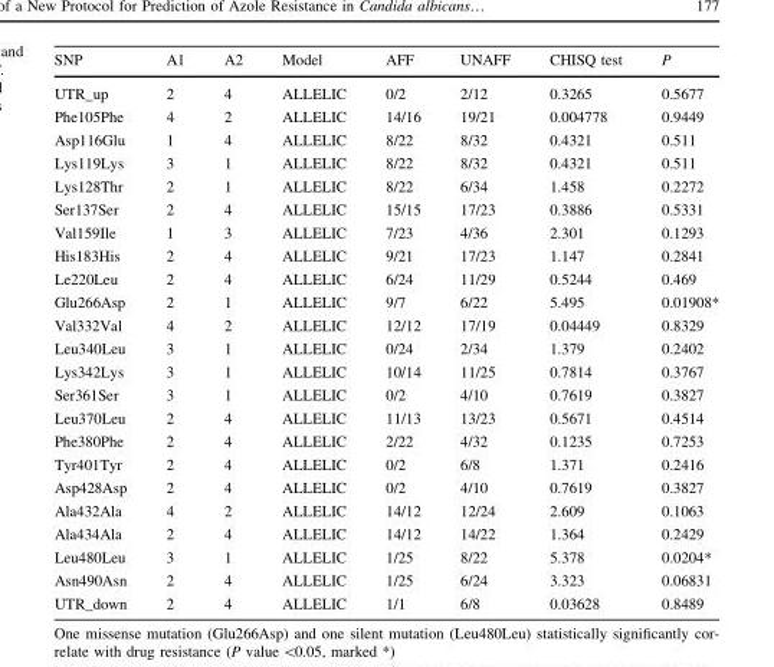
<table><thead><tr><td>SNP</td><td>A1</td><td>A2</td><td>Model</td><td>AFF</td><td>UNAFF</td><td>CHISQ test</td><td>P</td></tr></thead><tbody><tr><td>UTR_up</td><td>2</td><td>4</td><td>ALLELIC</td><td>0/2</td><td>2/12</td><td>0.3265</td><td>0.5677</td></tr><tr><td>Phe105Phe</td><td>4</td><td>2</td><td>ALLELIC</td><td>14/16</td><td>19/21</td><td>0.004778</td><td>0.9449</td></tr><tr><td>Asp116Glu</td><td>1</td><td>4</td><td>ALLELIC</td><td>8/22</td><td>8/32</td><td>0.4321</td><td>0.511</td></tr><tr><td>Lys119Lys</td><td>3</td><td>1</td><td>ALLELIC</td><td>8/22</td><td>8/32</td><td>0.4321</td><td>0.511</td></tr><tr><td>Lys128Thr</td><td>2</td><td>1</td><td>ALLELIC</td><td>8/22</td><td>6/34</td><td>1.458</td><td>0.2272</td></tr><tr><td>Ser137Ser</td><td>2</td><td>4</td><td>ALLELIC</td><td>15/15</td><td>17/23</td><td>0.3886</td><td>0.5331</td></tr><tr><td>Val159Ile</td><td>1</td><td>3</td><td>ALLELIC</td><td>7/23</td><td>4/36</td><td>2.301</td><td>0.1293</td></tr><tr><td>His183His</td><td>2</td><td>4</td><td>ALLELIC</td><td>9/21</td><td>17/23</td><td>1.147</td><td>0.2841</td></tr><tr><td>Le220Leu</td><td>2</td><td>4</td><td>ALLELIC</td><td>6/24</td><td>11/29</td><td>0.5244</td><td>0.469</td></tr><tr><td>Glu266Asp</td><td>2</td><td>1</td><td>ALLELIC</td><td>9/7</td><td>6/22</td><td>5.495</td><td>0.01908*</td></tr><tr><td>Val332Val</td><td>4</td><td>2</td><td>ALLELIC</td><td>12/12</td><td>17/19</td><td>0.04449</td><td>0.8329</td></tr><tr><td>Leu340Leu</td><td>3</td><td>1</td><td>ALLELIC</td><td>0/24</td><td>2/34</td><td>1.379</td><td>0.2402</td></tr><tr><td>Lys342Lys</td><td>3</td><td>1</td><td>ALLELIC</td><td>10/14</td><td>11/25</td><td>0.7814</td><td>0.3767</td></tr><tr><td>Ser361Ser</td><td>3</td><td>1</td><td>ALLELIC</td><td>0/2</td><td>4/10</td><td>0.7619</td><td>0.3827</td></tr><tr><td>Leu370Leu</td><td>2</td><td>4</td><td>ALLELIC</td><td>11/13</td><td>13/23</td><td>0.5671</td><td>0.4514</td></tr><tr><td>Phe380Phe</td><td>2</td><td>4</td><td>ALLELIC</td><td>2/22</td><td>4/32</td><td>0.1235</td><td>0.7253</td></tr><tr><td>Tyr401Tyr</td><td>2</td><td>4</td><td>ALLELIC</td><td>0/2</td><td>6/8</td><td>1.371</td><td>0.2416</td></tr><tr><td>Asp428Asp</td><td>2</td><td>4</td><td>ALLELIC</td><td>0/2</td><td>4/10</td><td>0.7619</td><td>0.3827</td></tr><tr><td>Ala432Ala</td><td>4</td><td>2</td><td>ALLELIC</td><td>14/12</td><td>12/24</td><td>2.609</td><td>0.1063</td></tr><tr><td>Ala434Ala</td><td>2</td><td>4</td><td>ALLELIC</td><td>14/12</td><td>14/22</td><td>1.364</td><td>0.2429</td></tr><tr><td>Leu480Leu</td><td>3</td><td>1</td><td>ALLELIC</td><td>1/25</td><td>8/22</td><td>5.378</td><td>0.0204*</td></tr><tr><td>Asn490Asn</td><td>2</td><td>4</td><td>ALLELIC</td><td>1/25</td><td>6/24</td><td>3.323</td><td>0.06831</td></tr><tr><td>UTR_down</td><td>2</td><td>4</td><td>ALLELIC</td><td>1/1</td><td>6/8</td><td>0.03628</td><td>0.8489</td></tr></tbody></table>